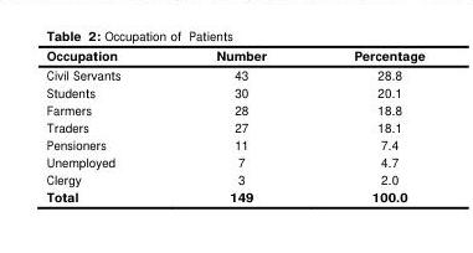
<table><thead><tr><td>Occupation</td><td>Number</td><td>Percentage</td></tr></thead><tbody><tr><td>Civil Servants</td><td>43</td><td>28.8</td></tr><tr><td>Students</td><td>30</td><td>20.1</td></tr><tr><td>Farmers</td><td>28</td><td>18.8</td></tr><tr><td>Traders</td><td>27</td><td>18.1</td></tr><tr><td>Pensioners</td><td>11</td><td>7.4</td></tr><tr><td>Unemployed</td><td>7</td><td>4.7</td></tr><tr><td>Clergy</td><td>3</td><td>2.0</td></tr><tr><td>Total</td><td>149</td><td>100.0</td></tr></tbody></table>